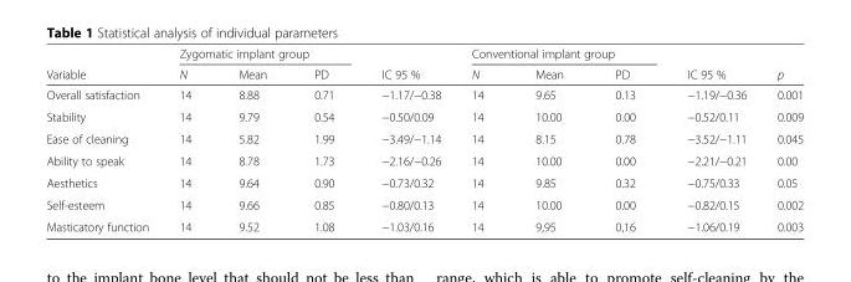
<table><thead><tr><td rowspan="2">Variable</td><td colspan="3">Zygomatic implant group</td><td rowspan="2">IC 95 %</td><td colspan="3">Conventional implant group</td><td rowspan="2">IC 95 %</td><td rowspan="2">p</td></tr><tr><td>N</td><td>Mean</td><td>PD</td><td>N</td><td>Mean</td><td>PD</td></tr></thead><tbody><tr><td>Overall satisfaction</td><td>14</td><td>8.88</td><td>0.71</td><td>−1.17/−0.38</td><td>14</td><td>9.65</td><td>0.13</td><td>−1.19/−0.36</td><td>0.001</td></tr><tr><td>Stability</td><td>14</td><td>9.79</td><td>0.54</td><td>−0.50/0.09</td><td>14</td><td>10.00</td><td>0.00</td><td>−0.52/0.11</td><td>0.009</td></tr><tr><td>Ease of cleaning</td><td>14</td><td>5.82</td><td>1.99</td><td>−3.49/−1.14</td><td>14</td><td>8.15</td><td>0.78</td><td>−3.52/−1.11</td><td>0.045</td></tr><tr><td>Ability to speak</td><td>14</td><td>8.78</td><td>1.73</td><td>−2.16/−0.26</td><td>14</td><td>10.00</td><td>0.00</td><td>−2.21/−0.21</td><td>0.00</td></tr><tr><td>Aesthetics</td><td>14</td><td>9.64</td><td>0.90</td><td>−0.73/0.32</td><td>14</td><td>9.85</td><td>0.32</td><td>−0.75/0.33</td><td>0.05</td></tr><tr><td>Self-esteem</td><td>14</td><td>9.66</td><td>0.85</td><td>−0.80/0.13</td><td>14</td><td>10.00</td><td>0.00</td><td>−0.82/0.15</td><td>0.002</td></tr><tr><td>Masticatory function</td><td>14</td><td>9.52</td><td>1.08</td><td>−1.03/0.16</td><td>14</td><td>9,95</td><td>0,16</td><td>−1.06/0.19</td><td>0.003</td></tr></tbody></table>